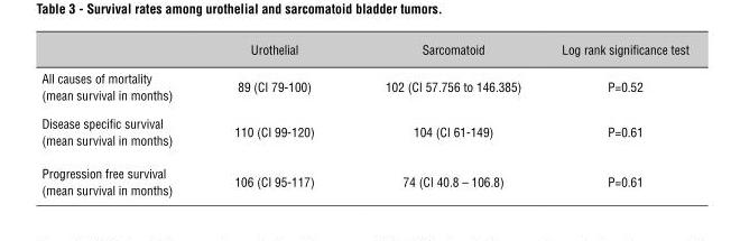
<table><thead><tr><td></td><td>Urothelial</td><td>Sarcomatoid</td><td>Log rank significance test</td></tr></thead><tbody><tr><td>All causes of mortality (mean survival in months)</td><td>89 (CI 79-100)</td><td>102 (CI 57.756 to 146.385)</td><td>P=0.52</td></tr><tr><td>Disease specific survival (mean survival in months)</td><td>110 (CI 99-120)</td><td>104 (CI 61-149)</td><td>P=0.61</td></tr><tr><td>Progression free survival (mean survival in months)</td><td>106 (CI 95-117)</td><td>74 (CI 40.8 – 106.8)</td><td>P=0.61</td></tr></tbody></table>